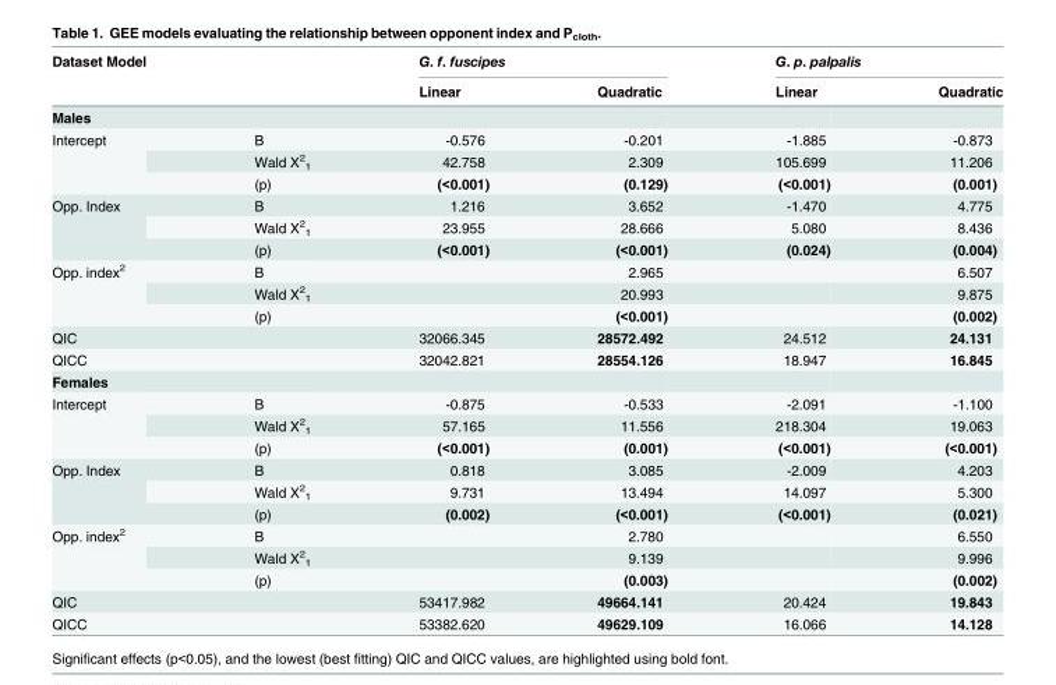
<table><thead><tr><td rowspan="2">Dataset Model</td><td rowspan="2"></td><td colspan="2">G. f. fuscipes</td><td colspan="2">G. p. palpalis</td></tr><tr><td>Linear</td><td>Quadratic</td><td>Linear</td><td>Quadratic</td></tr></thead><tbody><tr><td colspan="6">Males</td></tr><tr><td rowspan="3">Intercept</td><td>B</td><td>-0.576</td><td>-0.201</td><td>-1.885</td><td>-0.873</td></tr><tr><td>Wald X<sup>2</sup> <sub>1</sub></td><td>42.758</td><td>2.309</td><td>105.699</td><td>11.206</td></tr><tr><td>(p)</td><td>(&lt;0.001)</td><td>(0.129)</td><td>(&lt;0.001)</td><td>(0.001)</td></tr><tr><td rowspan="3">Opp. Index</td><td>B</td><td>1.216</td><td>3.652</td><td>-1.470</td><td>4.775</td></tr><tr><td>Wald X<sup>2</sup> <sub>1</sub></td><td>23.955</td><td>28.666</td><td>5.080</td><td>8.436</td></tr><tr><td>(p)</td><td>(&lt;0.001)</td><td>(&lt;0.001)</td><td>(0.024)</td><td>(0.004)</td></tr><tr><td rowspan="3">Opp. index<sup>2</sup></td><td>B</td><td></td><td>2.965</td><td></td><td>6.507</td></tr><tr><td>Wald X<sup>2</sup> <sub>1</sub></td><td></td><td>20.993</td><td></td><td>9.875</td></tr><tr><td>(p)</td><td></td><td>(&lt;0.001)</td><td></td><td>(0.002)</td></tr><tr><td>QIC</td><td></td><td>32066.345</td><td>28572.492</td><td>24.512</td><td>24.131</td></tr><tr><td>QICC</td><td></td><td>32042.821</td><td>28554.126</td><td>18.947</td><td>16.845</td></tr><tr><td colspan="6">Females</td></tr><tr><td rowspan="3">Intercept</td><td>B</td><td>-0.875</td><td>-0.533</td><td>-2.091</td><td>-1.100</td></tr><tr><td>Wald X<sup>2</sup> <sub>1</sub></td><td>57.165</td><td>11.556</td><td>218.304</td><td>19.063</td></tr><tr><td>(p)</td><td>(&lt;0.001)</td><td>(0.001)</td><td>(&lt;0.001)</td><td>(&lt;0.001)</td></tr><tr><td rowspan="3">Opp. Index</td><td>B</td><td>0.818</td><td>3.085</td><td>-2.009</td><td>4.203</td></tr><tr><td>Wald X<sup>2</sup> <sub>1</sub></td><td>9.731</td><td>13.494</td><td>14.097</td><td>5.300</td></tr><tr><td>(p)</td><td>(0.002)</td><td>(&lt;0.001)</td><td>(&lt;0.001)</td><td>(0.021)</td></tr><tr><td rowspan="3">Opp. index<sup>2</sup></td><td>B</td><td></td><td>2.780</td><td></td><td>6.550</td></tr><tr><td>Wald X<sup>2</sup> <sub>1</sub></td><td></td><td>9.139</td><td></td><td>9.996</td></tr><tr><td>(p)</td><td></td><td>(0.003)</td><td></td><td>(0.002)</td></tr><tr><td>QIC</td><td></td><td>53417.982</td><td>49664.141</td><td>20.424</td><td>19.843</td></tr><tr><td>QICC</td><td></td><td>53382.620</td><td>49629.109</td><td>16.066</td><td>14.128</td></tr></tbody></table>